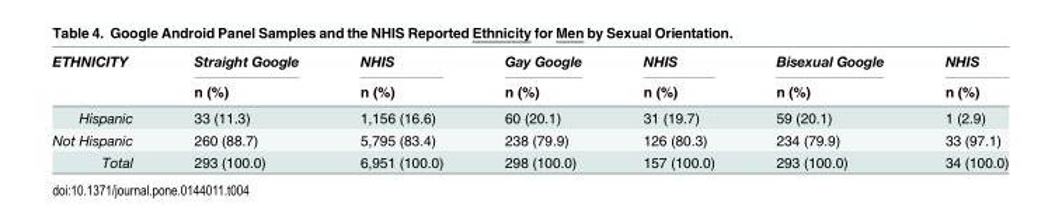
<table><thead><tr><td rowspan="2">ETHNICITY</td><td rowspan="2">Straight Google n (%)</td><td rowspan="2">NHIS n (%)</td><td rowspan="2">Gay Google n (%)</td><td rowspan="2">NHIS n (%)</td><td rowspan="2">Bisexual Google n (%)</td><td rowspan="2">NHIS n (%)</td></tr><tr></tr></thead><tbody><tr><td>Hispanic</td><td>33 (11.3)</td><td>1,156 (16.6)</td><td>60 (20.1)</td><td>31 (19.7)</td><td>59 (20.1)</td><td>1 (2.9)</td></tr><tr><td>Not Hispanic</td><td>260 (88.7)</td><td>5,795 (83.4)</td><td>238 (79.9)</td><td>126 (80.3)</td><td>234 (79.9)</td><td>33 (97.1)</td></tr><tr><td>Total</td><td>293 (100.0)</td><td>6,951 (100.0)</td><td>298 (100.0)</td><td>157 (100.0)</td><td>293 (100.0)</td><td>34 (100.0)</td></tr></tbody></table>